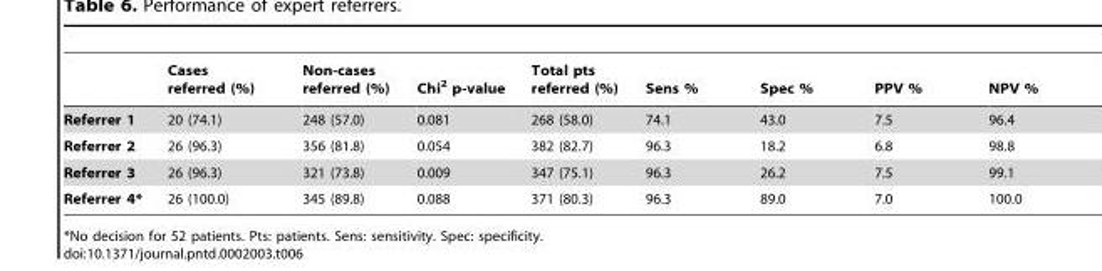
<table><thead><tr><td></td><td>Cases referred (%)</td><td>Non-cases referred (%)</td><td>Chi<sup>2</sup> p-value</td><td>Total pts referred (%)</td><td>Sens %</td><td>Spec %</td><td>PPV %</td><td>NPV %</td></tr></thead><tbody><tr><td>Referrer 1</td><td>20 (74.1)</td><td>248 (57.0)</td><td>0.081</td><td>268 (58.0)</td><td>74.1</td><td>43.0</td><td>7.5</td><td>96.4</td></tr><tr><td>Referrer 2</td><td>26 (96.3)</td><td>356 (81.8)</td><td>0.054</td><td>382 (82.7)</td><td>96.3</td><td>18.2</td><td>6.8</td><td>98.8</td></tr><tr><td>Referrer 3</td><td>26 (96.3)</td><td>321 (73.8)</td><td>0.009</td><td>347 (75.1)</td><td>96.3</td><td>26.2</td><td>7.5</td><td>99.1</td></tr><tr><td>Referrer 4*</td><td>26 (100.0)</td><td>345 (89.8)</td><td>0.088</td><td>371 (80.3)</td><td>96.3</td><td>89.0</td><td>7.0</td><td>100.0</td></tr></tbody></table>